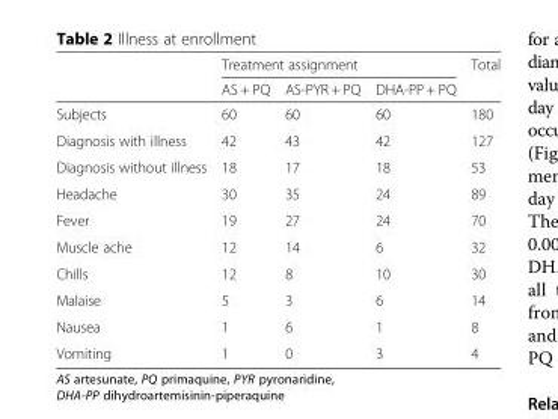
<table><thead><tr><td rowspan="2"></td><td colspan="3">Treatment assignment</td><td rowspan="2">Total</td></tr><tr><td>AS + PQ</td><td>AS-PYR + PQ</td><td>DHA-PP + PQ</td></tr></thead><tbody><tr><td>Subjects</td><td>60</td><td>60</td><td>60</td><td>180</td></tr><tr><td>Diagnosis with illness</td><td>42</td><td>43</td><td>42</td><td>127</td></tr><tr><td>Diagnosis without illness</td><td>18</td><td>17</td><td>18</td><td>53</td></tr><tr><td>Headache</td><td>30</td><td>35</td><td>24</td><td>89</td></tr><tr><td>Fever</td><td>19</td><td>27</td><td>24</td><td>70</td></tr><tr><td>Muscle ache</td><td>12</td><td>14</td><td>6</td><td>32</td></tr><tr><td>Chills</td><td>12</td><td>8</td><td>10</td><td>30</td></tr><tr><td>Malaise</td><td>5</td><td>3</td><td>6</td><td>14</td></tr><tr><td>Nausea</td><td>1</td><td>6</td><td>1</td><td>8</td></tr><tr><td>Vomiting</td><td>1</td><td>0</td><td>3</td><td>4</td></tr></tbody></table>